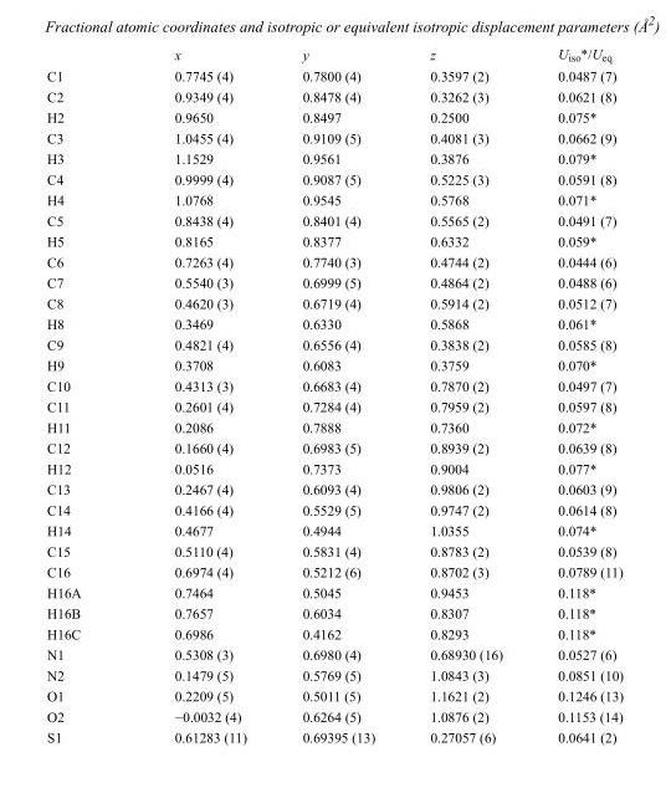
<table><thead><tr><td></td><td>x</td><td>y</td><td>z</td><td>U<sub>iso</sub>*/U<sub>eq</sub></td></tr></thead><tbody><tr><td>C1</td><td>0.7745 (4)</td><td>0.7800 (4)</td><td>0.3597 (2)</td><td>0.0487 (7)</td></tr><tr><td>C2</td><td>0.9349 (4)</td><td>0.8478 (4)</td><td>0.3262 (3)</td><td>0.0621 (8)</td></tr><tr><td>H2</td><td>0.9650</td><td>0.8497</td><td>0.2500</td><td>0.075*</td></tr><tr><td>C3</td><td>1.0455 (4)</td><td>0.9109 (5)</td><td>0.4081 (3)</td><td>0.0662 (9)</td></tr><tr><td>H3</td><td>1.1529</td><td>0.9561</td><td>0.3876</td><td>0.079*</td></tr><tr><td>C4</td><td>0.9999 (4)</td><td>0.9087 (5)</td><td>0.5225 (3)</td><td>0.0591 (8)</td></tr><tr><td>H4</td><td>1.0768</td><td>0.9545</td><td>0.5768</td><td>0.071*</td></tr><tr><td>C5</td><td>0.8438 (4)</td><td>0.8401 (4)</td><td>0.5565 (2)</td><td>0.0491 (7)</td></tr><tr><td>H5</td><td>0.8165</td><td>0.8377</td><td>0.6332</td><td>0.059*</td></tr><tr><td>C6</td><td>0.7263 (4)</td><td>0.7740 (3)</td><td>0.4744 (2)</td><td>0.0444 (6)</td></tr><tr><td>C7</td><td>0.5540 (3)</td><td>0.6999 (5)</td><td>0.4864 (2)</td><td>0.0488 (6)</td></tr><tr><td>C8</td><td>0.4620 (3)</td><td>0.6719 (4)</td><td>0.5914 (2)</td><td>0.0512 (7)</td></tr><tr><td>H8</td><td>0.3469</td><td>0.6330</td><td>0.5868</td><td>0.061*</td></tr><tr><td>C9</td><td>0.4821 (4)</td><td>0.6556 (4)</td><td>0.3838 (2)</td><td>0.0585 (8)</td></tr><tr><td>H9</td><td>0.3708</td><td>0.6083</td><td>0.3759</td><td>0.070*</td></tr><tr><td>C10</td><td>0.4313 (3)</td><td>0.6683 (4)</td><td>0.7870 (2)</td><td>0.0497 (7)</td></tr><tr><td>C11</td><td>0.2601 (4)</td><td>0.7284 (4)</td><td>0.7959 (2)</td><td>0.0597 (8)</td></tr><tr><td>H11</td><td>0.2086</td><td>0.7888</td><td>0.7360</td><td>0.072*</td></tr><tr><td>C12</td><td>0.1660 (4)</td><td>0.6983 (5)</td><td>0.8939 (2)</td><td>0.0639 (8)</td></tr><tr><td>H12</td><td>0.0516</td><td>0.7373</td><td>0.9004</td><td>0.077*</td></tr><tr><td>C13</td><td>0.2467 (4)</td><td>0.6093 (4)</td><td>0.9806 (2)</td><td>0.0603 (9)</td></tr><tr><td>C14</td><td>0.4166 (4)</td><td>0.5529 (5)</td><td>0.9747 (2)</td><td>0.0614 (8)</td></tr><tr><td>H14</td><td>0.4677</td><td>0.4944</td><td>1.0355</td><td>0.074*</td></tr><tr><td>C15</td><td>0.5110 (4)</td><td>0.5831 (4)</td><td>0.8783 (2)</td><td>0.0539 (8)</td></tr><tr><td>C16</td><td>0.6974 (4)</td><td>0.5212 (6)</td><td>0.8702 (3)</td><td>0.0789 (11)</td></tr><tr><td>H16A</td><td>0.7464</td><td>0.5045</td><td>0.9453</td><td>0.118*</td></tr><tr><td>H16B</td><td>0.7657</td><td>0.6034</td><td>0.8307</td><td>0.118*</td></tr><tr><td>H16C</td><td>0.6986</td><td>0.4162</td><td>0.8293</td><td>0.118*</td></tr><tr><td>N1</td><td>0.5308 (3)</td><td>0.6980 (4)</td><td>0.68930 (16)</td><td>0.0527 (6)</td></tr><tr><td>N2</td><td>0.1479 (5)</td><td>0.5769 (5)</td><td>1.0843 (3)</td><td>0.0851 (10)</td></tr><tr><td>O1</td><td>0.2209 (5)</td><td>0.5011 (5)</td><td>1.1621 (2)</td><td>0.1246 (13)</td></tr><tr><td>O2</td><td>−0.0032 (4)</td><td>0.6264 (5)</td><td>1.0876 (2)</td><td>0.1153 (14)</td></tr><tr><td>S1</td><td>0.61283 (11)</td><td>0.69395 (13)</td><td>0.27057 (6)</td><td>0.0641 (2)</td></tr></tbody></table>